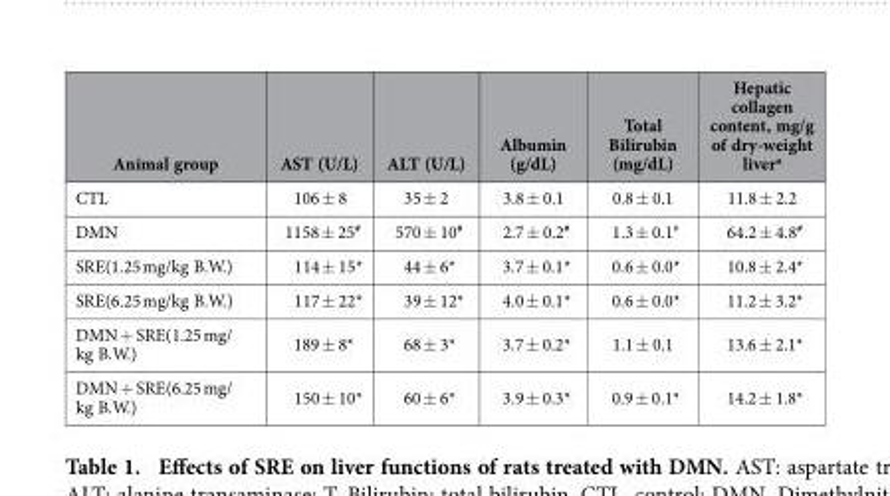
<table><thead><tr><td>Animal group</td><td>AST (U/L)</td><td>ALT (U/L)</td><td>Albumin (g/dL)</td><td>Total Bilirubin (mg/dL)</td><td>Hepatic collagen content, mg/g of dry-weight liver<sup>a</sup></td></tr></thead><tbody><tr><td>CTL</td><td>106 ± 8</td><td>35 ± 2</td><td>3.8 ± 0.1</td><td>0.8 ± 0.1</td><td>11.8 ± 2.2</td></tr><tr><td>DMN</td><td>1158 ± 25<sup>#</sup></td><td>570 ± 10<sup>#</sup></td><td>2.7 ± 0.2<sup>#</sup></td><td>1.3 ± 0.1<sup>#</sup></td><td>64.2 ± 4.8<sup>#</sup></td></tr><tr><td>SRE(1.25 mg/kg B.W.)</td><td>114 ± 15*</td><td>44 ± 6*</td><td>3.7 ± 0.1*</td><td>0.6 ± 0.0*</td><td>10.8 ± 2.4*</td></tr><tr><td>SRE(6.25 mg/kg B.W.)</td><td>117 ± 22*</td><td>39 ± 12*</td><td>4.0 ± 0.1*</td><td>0.6 ± 0.0*</td><td>11.2 ± 3.2*</td></tr><tr><td>DMN + SRE(1.25 mg/ kg B.W.)</td><td>189 ± 8*</td><td>68 ± 3*</td><td>3.7 ± 0.2*</td><td>1.1 ± 0.1</td><td>13.6 ± 2.1*</td></tr><tr><td>DMN + SRE(6.25 mg/ kg B.W.)</td><td>150 ± 10*</td><td>60 ± 6*</td><td>3.9 ± 0.3*</td><td>0.9 ± 0.1*</td><td>14.2 ± 1.8*</td></tr></tbody></table>